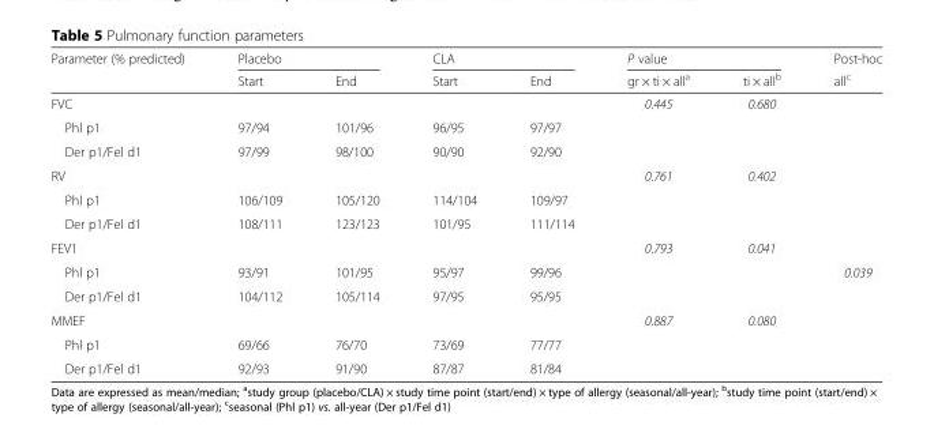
<table><thead><tr><td rowspan="2">Parameter (% predicted)</td><td rowspan="2">Placebo Start</td><td rowspan="2">End</td><td rowspan="2">CLA Start</td><td rowspan="2">End</td><td rowspan="2">P value gr × ti × all<sup>a</sup></td><td rowspan="2">ti × all<sup>b</sup></td><td rowspan="2">Post-hoc all<sup>c</sup></td></tr><tr></tr></thead><tbody><tr><td>FVC</td><td></td><td></td><td></td><td></td><td>0.445</td><td>0.680</td><td></td></tr><tr><td>Phl p1</td><td>97/94</td><td>101/96</td><td>96/95</td><td>97/97</td><td></td><td></td><td></td></tr><tr><td>Der p1/Fel d1</td><td>97/99</td><td>98/100</td><td>90/90</td><td>92/90</td><td></td><td></td><td></td></tr><tr><td>RV</td><td></td><td></td><td></td><td></td><td>0.761</td><td>0.402</td><td></td></tr><tr><td>Phl p1</td><td>106/109</td><td>105/120</td><td>114/104</td><td>109/97</td><td></td><td></td><td></td></tr><tr><td>Der p1/Fel d1</td><td>108/111</td><td>123/123</td><td>101/95</td><td>111/114</td><td></td><td></td><td></td></tr><tr><td>FEV1</td><td></td><td></td><td></td><td></td><td>0.793</td><td>0.041</td><td></td></tr><tr><td>Phl p1</td><td>93/91</td><td>101/95</td><td>95/97</td><td>99/96</td><td></td><td></td><td>0.039</td></tr><tr><td>Der p1/Fel d1</td><td>104/112</td><td>105/114</td><td>97/95</td><td>95/95</td><td></td><td></td><td></td></tr><tr><td>MMEF</td><td></td><td></td><td></td><td></td><td>0.887</td><td>0.080</td><td></td></tr><tr><td>Phl p1</td><td>69/66</td><td>76/70</td><td>73/69</td><td>77/77</td><td></td><td></td><td></td></tr><tr><td>Der p1/Fel d1</td><td>92/93</td><td>91/90</td><td>87/87</td><td>81/84</td><td></td><td></td><td></td></tr></tbody></table>